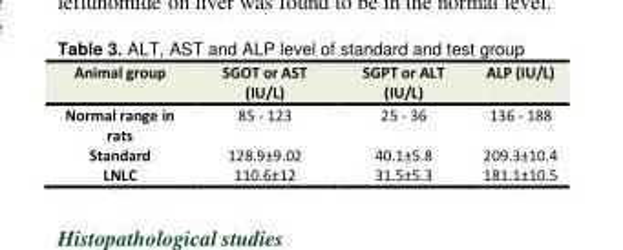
<table><tbody><tr><td>Animal group</td><td>SGOT or AST (IU/L)</td><td>SGPT or ALT (IU/L)</td><td>ALP (IU/L)</td></tr><tr><td>Normal range in rats</td><td>85 - 123</td><td>25 - 36</td><td>136 - 188</td></tr><tr><td>Standard</td><td>128.9±9.02</td><td>40.1±5.8</td><td>209.3±10.4</td></tr><tr><td>LNLC</td><td>110.6±12</td><td>31.5±5.3</td><td>181.1±10.5</td></tr></tbody></table>